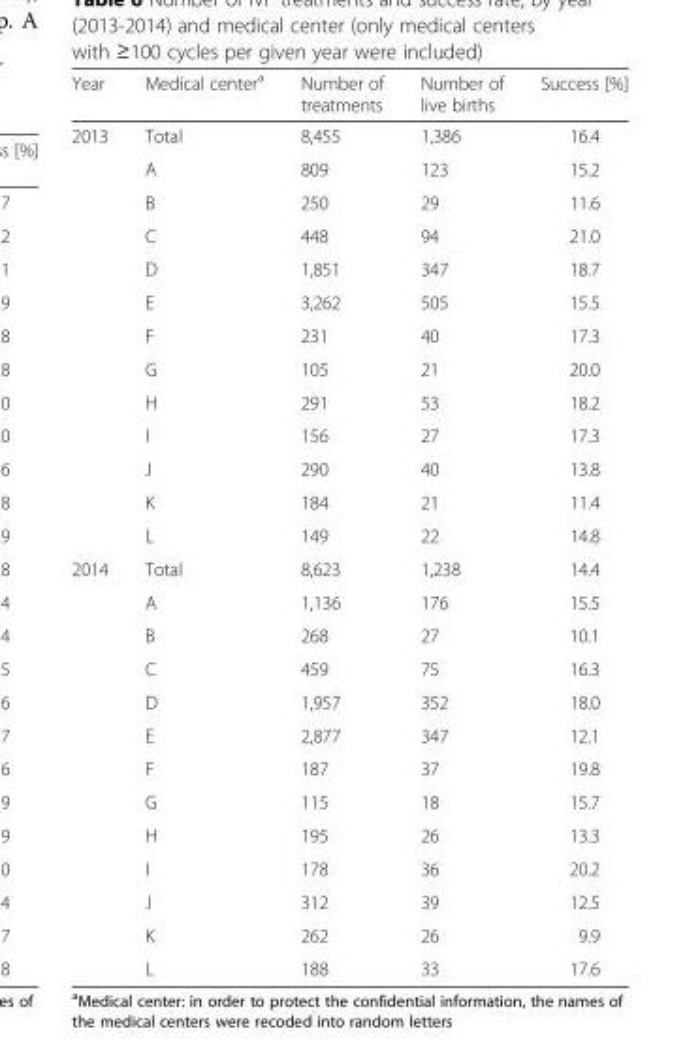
<table><thead><tr><td>Year</td><td>Medical center<sup>a</sup></td><td>Number of treatments</td><td>Number of live births</td><td>Success [%]</td></tr></thead><tbody><tr><td rowspan="13">2013</td><td>Total</td><td>8,455</td><td>1,386</td><td>16.4</td></tr><tr><td>A</td><td>809</td><td>123</td><td>15.2</td></tr><tr><td>B</td><td>250</td><td>29</td><td>11.6</td></tr><tr><td>C</td><td>448</td><td>94</td><td>21.0</td></tr><tr><td>D</td><td>1,851</td><td>347</td><td>18.7</td></tr><tr><td>E</td><td>3,262</td><td>505</td><td>15.5</td></tr><tr><td>F</td><td>231</td><td>40</td><td>17.3</td></tr><tr><td>G</td><td>105</td><td>21</td><td>20.0</td></tr><tr><td>H</td><td>291</td><td>53</td><td>18.2</td></tr><tr><td>I</td><td>156</td><td>27</td><td>17.3</td></tr><tr><td>J</td><td>290</td><td>40</td><td>13.8</td></tr><tr><td>K</td><td>184</td><td>21</td><td>11.4</td></tr><tr><td>L</td><td>149</td><td>22</td><td>14.8</td></tr><tr><td rowspan="13">2014</td><td>Total</td><td>8,623</td><td>1,238</td><td>14.4</td></tr><tr><td>A</td><td>1,136</td><td>176</td><td>15.5</td></tr><tr><td>B</td><td>268</td><td>27</td><td>10.1</td></tr><tr><td>C</td><td>459</td><td>75</td><td>16.3</td></tr><tr><td>D</td><td>1,957</td><td>352</td><td>18.0</td></tr><tr><td>E</td><td>2,877</td><td>347</td><td>12.1</td></tr><tr><td>F</td><td>187</td><td>37</td><td>19.8</td></tr><tr><td>G</td><td>115</td><td>18</td><td>15.7</td></tr><tr><td>H</td><td>195</td><td>26</td><td>13.3</td></tr><tr><td>I</td><td>178</td><td>36</td><td>20.2</td></tr><tr><td>J</td><td>312</td><td>39</td><td>12.5</td></tr><tr><td>K</td><td>262</td><td>26</td><td>9.9</td></tr><tr><td>L</td><td>188</td><td>33</td><td>17.6</td></tr></tbody></table>